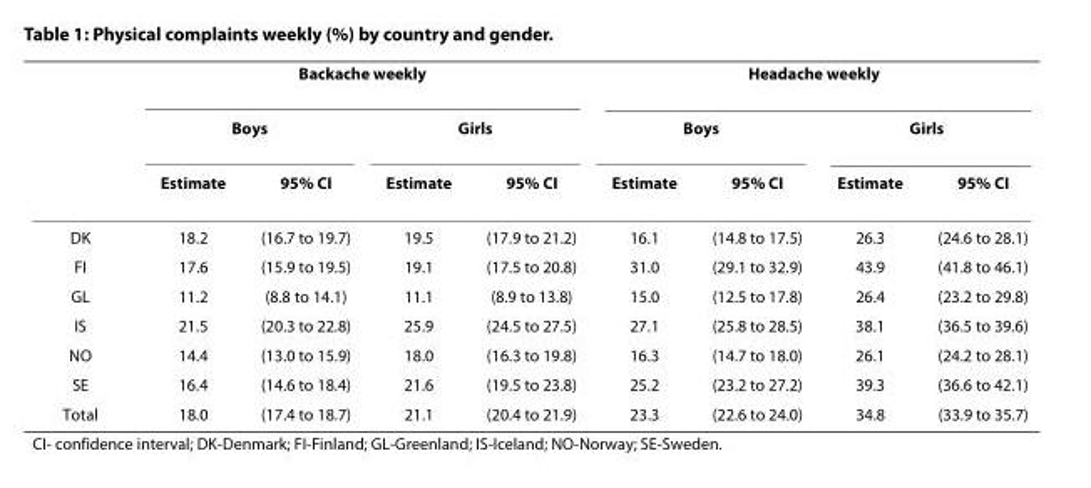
<table><thead><tr><td rowspan="3"></td><td colspan="4">Backache weekly</td><td colspan="4">Headache weekly</td></tr><tr><td colspan="2">Boys</td><td colspan="2">Girls</td><td colspan="2">Boys</td><td colspan="2">Girls</td></tr><tr><td>Estimate</td><td>95% CI</td><td>Estimate</td><td>95% CI</td><td>Estimate</td><td>95% CI</td><td>Estimate</td><td>95% CI</td></tr></thead><tbody><tr><td>DK</td><td>18.2</td><td>(16.7 to 19.7)</td><td>19.5</td><td>(17.9 to 21.2)</td><td>16.1</td><td>(14.8 to 17.5)</td><td>26.3</td><td>(24.6 to 28.1)</td></tr><tr><td>FI</td><td>17.6</td><td>(15.9 to 19.5)</td><td>19.1</td><td>(17.5 to 20.8)</td><td>31.0</td><td>(29.1 to 32.9)</td><td>43.9</td><td>(41.8 to 46.1)</td></tr><tr><td>GL</td><td>11.2</td><td>(8.8 to 14.1)</td><td>11.1</td><td>(8.9 to 13.8)</td><td>15.0</td><td>(12.5 to 17.8)</td><td>26.4</td><td>(23.2 to 29.8)</td></tr><tr><td>IS</td><td>21.5</td><td>(20.3 to 22.8)</td><td>25.9</td><td>(24.5 to 27.5)</td><td>27.1</td><td>(25.8 to 28.5)</td><td>38.1</td><td>(36.5 to 39.6)</td></tr><tr><td>NO</td><td>14.4</td><td>(13.0 to 15.9)</td><td>18.0</td><td>(16.3 to 19.8)</td><td>16.3</td><td>(14.7 to 18.0)</td><td>26.1</td><td>(24.2 to 28.1)</td></tr><tr><td>SE</td><td>16.4</td><td>(14.6 to 18.4)</td><td>21.6</td><td>(19.5 to 23.8)</td><td>25.2</td><td>(23.2 to 27.2)</td><td>39.3</td><td>(36.6 to 42.1)</td></tr><tr><td>Total</td><td>18.0</td><td>(17.4 to 18.7)</td><td>21.1</td><td>(20.4 to 21.9)</td><td>23.3</td><td>(22.6 to 24.0)</td><td>34.8</td><td>(33.9 to 35.7)</td></tr></tbody></table>